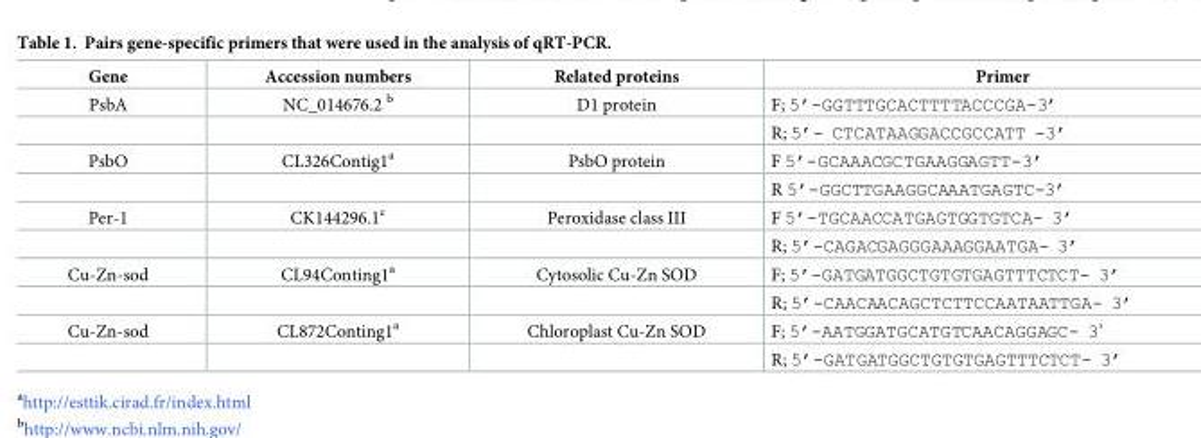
<table><thead><tr><td>Gene</td><td>Accession numbers</td><td>Related proteins</td><td>Primer</td></tr></thead><tbody><tr><td rowspan="2">PsbA</td><td>NC_014676.2 <sup>b</sup></td><td>D1 protein</td><td>F; 5’-GGTTTGCACTTTTACCCGA-3’</td></tr><tr><td></td><td></td><td>R; 5’- CTCATAAGGACCGCCATT -3’</td></tr><tr><td rowspan="2">PsbO</td><td>CL326Contig1<sup>a</sup></td><td>PsbO protein</td><td>F 5’-GCAAACGCTGAAGGAGTT-3’</td></tr><tr><td></td><td></td><td>R 5’-GGCTTGAAGGCAAATGAGTC-3’</td></tr><tr><td rowspan="2">Per-1</td><td>CK144296.1<sup>c</sup></td><td>Peroxidase class III</td><td>F 5’-TGCAACCATGAGTGGTGTCA- 3’</td></tr><tr><td></td><td></td><td>R; 5’-CAGACGAGGGAAAGGAATGA- 3’</td></tr><tr><td rowspan="2">Cu-Zn-sod</td><td>CL94Conting1<sup>a</sup></td><td>Cytosolic Cu-Zn SOD</td><td>F; 5’-GATGATGGCTGTGTGAGTTTCTCT- 3’</td></tr><tr><td></td><td></td><td>R; 5’-CAACAACAGCTCTTCCAATAATTGA- 3’</td></tr><tr><td rowspan="2">Cu-Zn-sod</td><td>CL872Conting1<sup>a</sup></td><td>Chloroplast Cu-Zn SOD</td><td>F; 5’-AATGGATGCATGTCAACAGGAGC- 3’</td></tr><tr><td></td><td></td><td>R; 5’-GATGATGGCTGTGTGAGTTTCTCT- 3’</td></tr></tbody></table>